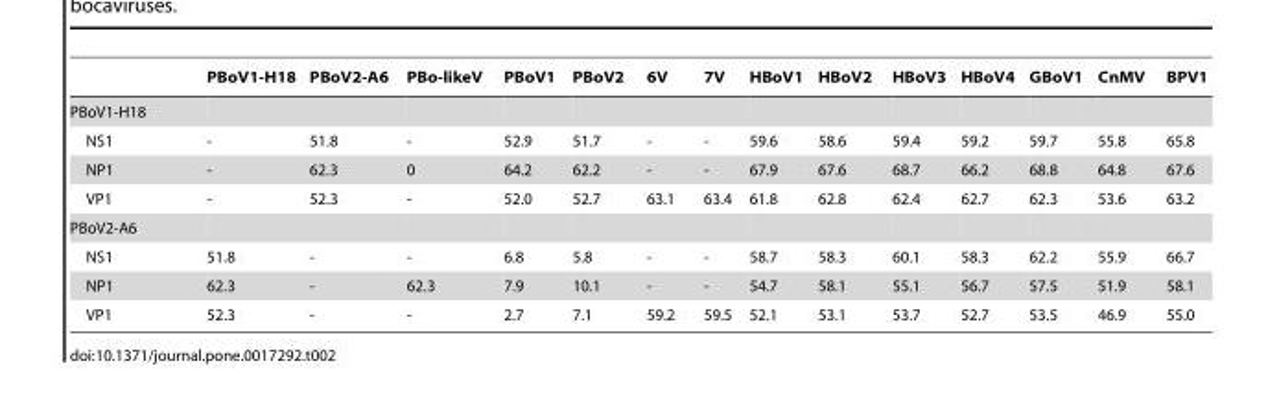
<table><thead><tr><td></td><td>PBoV1-H18</td><td>PBoV2-A6</td><td>PBo-likeV</td><td>PBoV1</td><td>PBoV2</td><td>6V</td><td>7V</td><td>HBoV1</td><td>HBoV2</td><td>HBoV3</td><td>HBoV4</td><td>GBoV1</td><td>CnMV</td><td>BPV1</td></tr></thead><tbody><tr><td colspan="15">PBoV1-H18</td></tr><tr><td>NS1</td><td>-</td><td>51.8</td><td>-</td><td>52.9</td><td>51.7</td><td>-</td><td>-</td><td>59.6</td><td>58.6</td><td>59.4</td><td>59.2</td><td>59.7</td><td>55.8</td><td>65.8</td></tr><tr><td>NP1</td><td>-</td><td>62.3</td><td>0</td><td>64.2</td><td>62.2</td><td>-</td><td>-</td><td>67.9</td><td>67.6</td><td>68.7</td><td>66.2</td><td>68.8</td><td>64.8</td><td>67.6</td></tr><tr><td>VP1</td><td>-</td><td>52.3</td><td>-</td><td>52.0</td><td>52.7</td><td>63.1</td><td>63.4</td><td>61.8</td><td>62.8</td><td>62.4</td><td>62.7</td><td>62.3</td><td>53.6</td><td>63.2</td></tr><tr><td colspan="15">PBoV2-A6</td></tr><tr><td>NS1</td><td>51.8</td><td>-</td><td>-</td><td>6.8</td><td>5.8</td><td>-</td><td>-</td><td>58.7</td><td>58.3</td><td>60.1</td><td>58.3</td><td>62.2</td><td>55.9</td><td>66.7</td></tr><tr><td>NP1</td><td>62.3</td><td>-</td><td>62.3</td><td>7.9</td><td>10.1</td><td>-</td><td>-</td><td>54.7</td><td>58.1</td><td>55.1</td><td>56.7</td><td>57.5</td><td>51.9</td><td>58.1</td></tr><tr><td>VP1</td><td>52.3</td><td>-</td><td>-</td><td>2.7</td><td>7.1</td><td>59.2</td><td>59.5</td><td>52.1</td><td>53.1</td><td>53.7</td><td>52.7</td><td>53.5</td><td>46.9</td><td>55.0</td></tr></tbody></table>